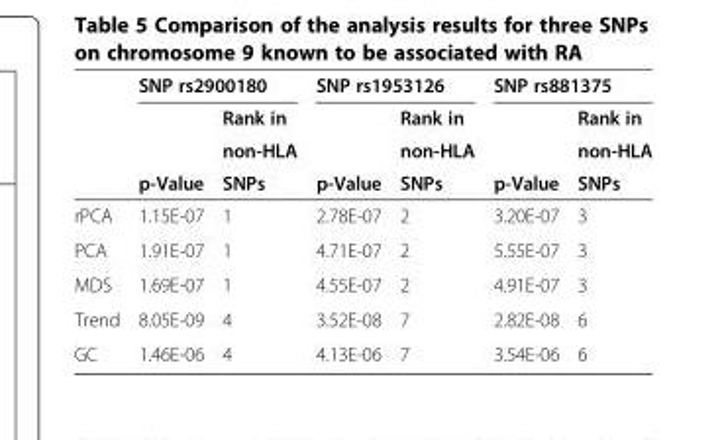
<table><thead><tr><td rowspan="4"></td><td colspan="2">SNP rs2900180</td><td colspan="2">SNP rs1953126</td><td colspan="2">SNP rs881375</td></tr><tr><td rowspan="3">p-Value</td><td rowspan="3">Rank in non-HLA SNPs</td><td rowspan="3">p-Value</td><td rowspan="3">Rank in non-HLA SNPs</td><td rowspan="3">p-Value</td><td rowspan="3">Rank in non-HLA SNPs</td></tr><tr></tr><tr></tr></thead><tbody><tr><td>rPCA</td><td>1.15E-07</td><td>1</td><td>2.78E-07</td><td>2</td><td>3.20E-07</td><td>3</td></tr><tr><td>PCA</td><td>1.91E-07</td><td>1</td><td>4.71E-07</td><td>2</td><td>5.55E-07</td><td>3</td></tr><tr><td>MDS</td><td>1.69E-07</td><td>1</td><td>4.55E-07</td><td>2</td><td>4.91E-07</td><td>3</td></tr><tr><td>Trend</td><td>8.05E-09</td><td>4</td><td>3.52E-08</td><td>7</td><td>2.82E-08</td><td>6</td></tr><tr><td>GC</td><td>1.46E-06</td><td>4</td><td>4.13E-06</td><td>7</td><td>3.54E-06</td><td>6</td></tr></tbody></table>